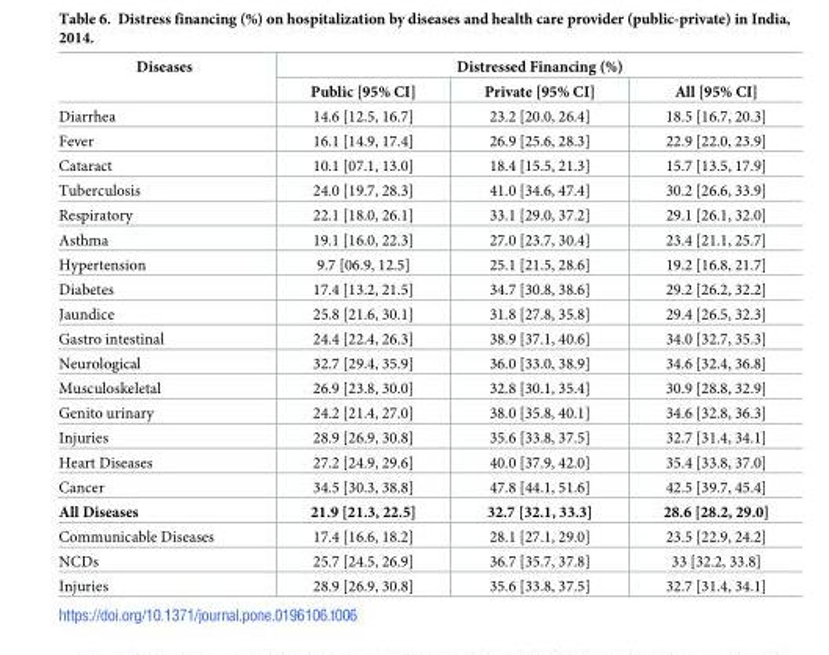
<table><thead><tr><td rowspan="2">Diseases</td><td colspan="3">Distressed Financing (%)</td></tr><tr><td>Public [95% CI]</td><td>Private [95% CI]</td><td>All [95% CI]</td></tr></thead><tbody><tr><td>Diarrhea</td><td>14.6 [12.5, 16.7]</td><td>23.2 [20.0, 26.4]</td><td>18.5 [16.7, 20.3]</td></tr><tr><td>Fever</td><td>16.1 [14.9, 17.4]</td><td>26.9 [25.6, 28.3]</td><td>22.9 [22.0, 23.9]</td></tr><tr><td>Cataract</td><td>10.1 [07.1, 13.0]</td><td>18.4 [15.5, 21.3]</td><td>15.7 [13.5, 17.9]</td></tr><tr><td>Tuberculosis</td><td>24.0 [19.7, 28.3]</td><td>41.0 [34.6, 47.4]</td><td>30.2 [26.6, 33.9]</td></tr><tr><td>Respiratory</td><td>22.1 [18.0, 26.1]</td><td>33.1 [29.0, 37.2]</td><td>29.1 [26.1, 32.0]</td></tr><tr><td>Asthma</td><td>19.1 [16.0, 22.3]</td><td>27.0 [23.7, 30.4]</td><td>23.4 [21.1, 25.7]</td></tr><tr><td>Hypertension</td><td>9.7 [06.9, 12.5]</td><td>25.1 [21.5, 28.6]</td><td>19.2 [16.8, 21.7]</td></tr><tr><td>Diabetes</td><td>17.4 [13.2, 21.5]</td><td>34.7 [30.8, 38.6]</td><td>29.2 [26.2, 32.2]</td></tr><tr><td>Jaundice</td><td>25.8 [21.6, 30.1]</td><td>31.8 [27.8, 35.8]</td><td>29.4 [26.5, 32.3]</td></tr><tr><td>Gastro intestinal</td><td>24.4 [22.4, 26.3]</td><td>38.9 [37.1, 40.6]</td><td>34.0 [32.7, 35.3]</td></tr><tr><td>Neurological</td><td>32.7 [29.4, 35.9]</td><td>36.0 [33.0, 38.9]</td><td>34.6 [32.4, 36.8]</td></tr><tr><td>Musculoskeletal</td><td>26.9 [23.8, 30.0]</td><td>32.8 [30.1, 35.4]</td><td>30.9 [28.8, 32.9]</td></tr><tr><td>Genito urinary</td><td>24.2 [21.4, 27.0]</td><td>38.0 [35.8, 40.1]</td><td>34.6 [32.8, 36.3]</td></tr><tr><td>Injuries</td><td>28.9 [26.9, 30.8]</td><td>35.6 [33.8, 37.5]</td><td>32.7 [31.4, 34.1]</td></tr><tr><td>Heart Diseases</td><td>27.2 [24.9, 29.6]</td><td>40.0 [37.9, 42.0]</td><td>35.4 [33.8, 37.0]</td></tr><tr><td>Cancer</td><td>34.5 [30.3, 38.8]</td><td>47.8 [44.1, 51.6]</td><td>42.5 [39.7, 45.4]</td></tr><tr><td>All Diseases</td><td>21.9 [21.3, 22.5]</td><td>32.7 [32.1, 33.3]</td><td>28.6 [28.2, 29.0]</td></tr><tr><td>Communicable Diseases</td><td>17.4 [16.6, 18.2]</td><td>28.1 [27.1, 29.0]</td><td>23.5 [22.9, 24.2]</td></tr><tr><td>NCDs</td><td>25.7 [24.5, 26.9]</td><td>36.7 [35.7, 37.8]</td><td>33 [32.2, 33.8]</td></tr><tr><td>Injuries</td><td>28.9 [26.9, 30.8]</td><td>35.6 [33.8, 37.5]</td><td>32.7 [31.4, 34.1]</td></tr></tbody></table>